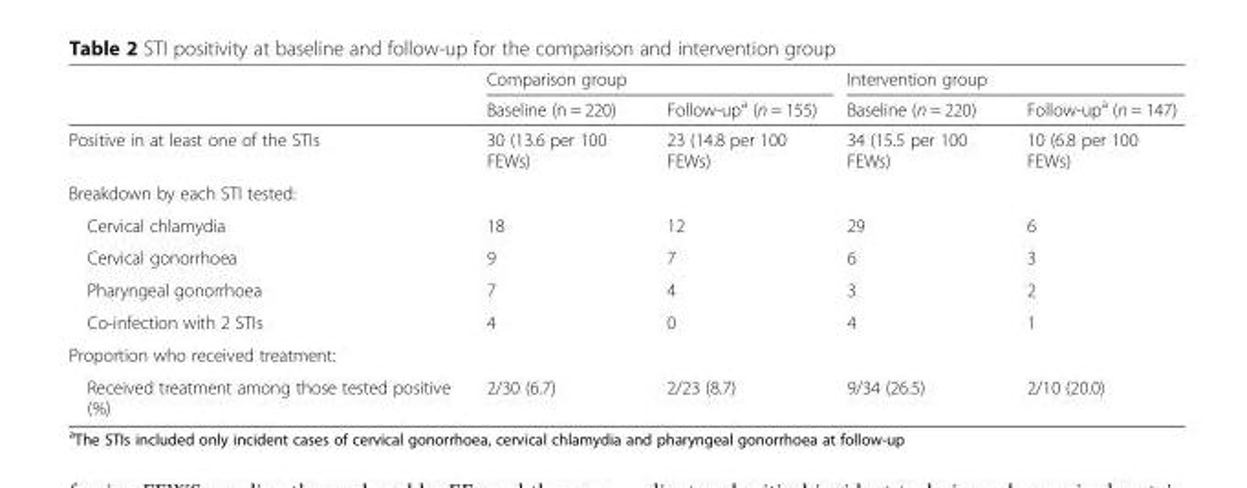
<table><thead><tr><td rowspan="2"></td><td colspan="2">Comparison group</td><td colspan="2">Intervention group</td></tr><tr><td>Baseline (n = 220)</td><td>Follow-up<sup>a</sup> (n = 155)</td><td>Baseline (n = 220)</td><td>Follow-up<sup>a</sup> (n = 147)</td></tr></thead><tbody><tr><td>Positive in at least one of the STIs</td><td>30 (13.6 per 100 FEWs)</td><td>23 (14.8 per 100 FEWs)</td><td>34 (15.5 per 100 FEWs)</td><td>10 (6.8 per 100 FEWs)</td></tr><tr><td colspan="5">Breakdown by each STI tested:</td></tr><tr><td>Cervical chlamydia</td><td>18</td><td>12</td><td>29</td><td>6</td></tr><tr><td>Cervical gonorrhoea</td><td>9</td><td>7</td><td>6</td><td>3</td></tr><tr><td>Pharyngeal gonorrhoea</td><td>7</td><td>4</td><td>3</td><td>2</td></tr><tr><td>Co-infection with 2 STIs</td><td>4</td><td>0</td><td>4</td><td>1</td></tr><tr><td colspan="5">Proportion who received treatment:</td></tr><tr><td>Received treatment among those tested positive (%)</td><td>2/30 (6.7)</td><td>2/23 (8.7)</td><td>9/34 (26.5)</td><td>2/10 (20.0)</td></tr></tbody></table>